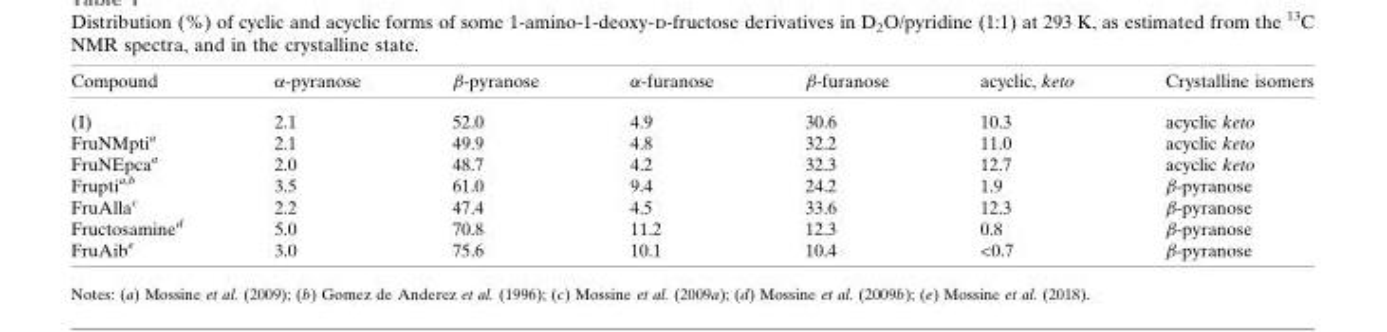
<table><thead><tr><td>Compound</td><td>α-pyranose</td><td>β-pyranose</td><td>α-furanose</td><td>β-furanose</td><td>acyclic, keto</td><td>Crystalline isomers</td></tr></thead><tbody><tr><td>(I)</td><td>2.1</td><td>52.0</td><td>4.9</td><td>30.6</td><td>10.3</td><td>acyclic keto</td></tr><tr><td>FruNMpti<sup>a</sup></td><td>2.1</td><td>49.9</td><td>4.8</td><td>32.2</td><td>11.0</td><td>acyclic keto</td></tr><tr><td>FruNEpca<sup>a</sup></td><td>2.0</td><td>48.7</td><td>4.2</td><td>32.3</td><td>12.7</td><td>acyclic keto</td></tr><tr><td>Frupti<sup>a,b</sup></td><td>3.5</td><td>61.0</td><td>9.4</td><td>24.2</td><td>1.9</td><td>β-pyranose</td></tr><tr><td>FruAlla<sup>c</sup></td><td>2.2</td><td>47.4</td><td>4.5</td><td>33.6</td><td>12.3</td><td>β-pyranose</td></tr><tr><td>Fructosamine<sup>d</sup></td><td>5.0</td><td>70.8</td><td>11.2</td><td>12.3</td><td>0.8</td><td>β-pyranose</td></tr><tr><td>FruAib<sup>e</sup></td><td>3.0</td><td>75.6</td><td>10.1</td><td>10.4</td><td>&lt;0.7</td><td>β-pyranose</td></tr></tbody></table>